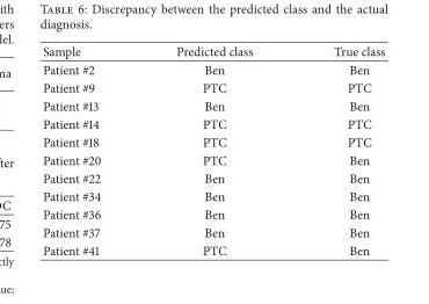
<table><thead><tr><td>Sample</td><td>Predicted class</td><td>True class</td></tr></thead><tbody><tr><td>Patient #2</td><td>Ben</td><td>Ben</td></tr><tr><td>Patient #9</td><td>PTC</td><td>PTC</td></tr><tr><td>Patient #13</td><td>Ben</td><td>Ben</td></tr><tr><td>Patient #14</td><td>PTC</td><td>PTC</td></tr><tr><td>Patient #18</td><td>PTC</td><td>PTC</td></tr><tr><td>Patient #20</td><td>PTC</td><td>Ben</td></tr><tr><td>Patient #22</td><td>Ben</td><td>Ben</td></tr><tr><td>Patient #34</td><td>Ben</td><td>Ben</td></tr><tr><td>Patient #36</td><td>Ben</td><td>Ben</td></tr><tr><td>Patient #37</td><td>Ben</td><td>Ben</td></tr><tr><td>Patient #41</td><td>PTC</td><td>Ben</td></tr></tbody></table>